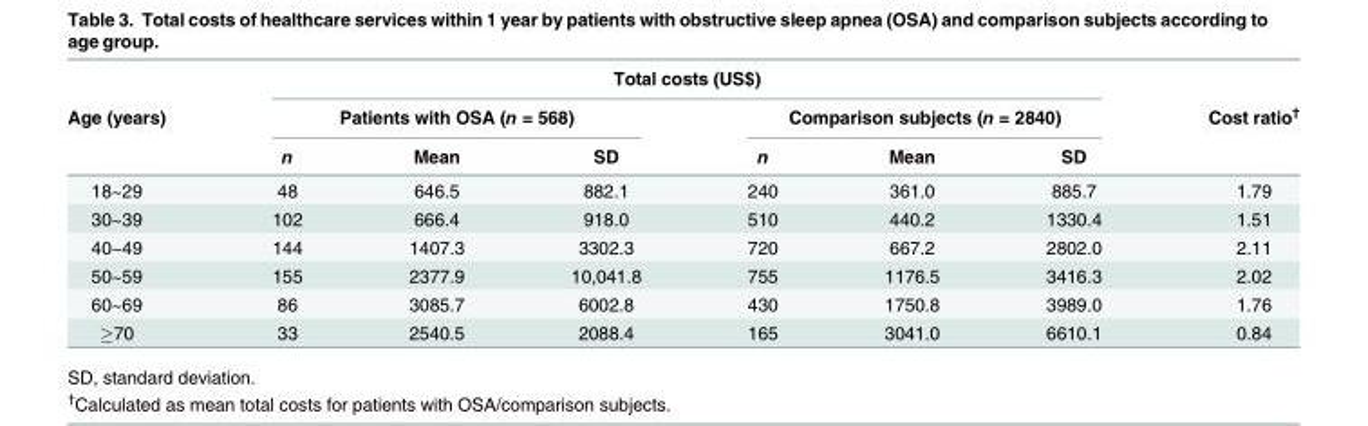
<table><thead><tr><td rowspan="3">Age (years)</td><td colspan="6">Total costs (US$)</td><td rowspan="3">Cost ratio<sup>†</sup></td></tr><tr><td colspan="3">Patients with OSA (n = 568)</td><td colspan="3">Comparison subjects (n = 2840)</td></tr><tr><td>n</td><td>Mean</td><td>SD</td><td>n</td><td>Mean</td><td>SD</td></tr></thead><tbody><tr><td>18~29</td><td>48</td><td>646.5</td><td>882.1</td><td>240</td><td>361.0</td><td>885.7</td><td>1.79</td></tr><tr><td>30~39</td><td>102</td><td>666.4</td><td>918.0</td><td>510</td><td>440.2</td><td>1330.4</td><td>1.51</td></tr><tr><td>40~49</td><td>144</td><td>1407.3</td><td>3302.3</td><td>720</td><td>667.2</td><td>2802.0</td><td>2.11</td></tr><tr><td>50~59</td><td>155</td><td>2377.9</td><td>10,041.8</td><td>755</td><td>1176.5</td><td>3416.3</td><td>2.02</td></tr><tr><td>60~69</td><td>86</td><td>3085.7</td><td>6002.8</td><td>430</td><td>1750.8</td><td>3989.0</td><td>1.76</td></tr><tr><td>≥70</td><td>33</td><td>2540.5</td><td>2088.4</td><td>165</td><td>3041.0</td><td>6610.1</td><td>0.84</td></tr></tbody></table>